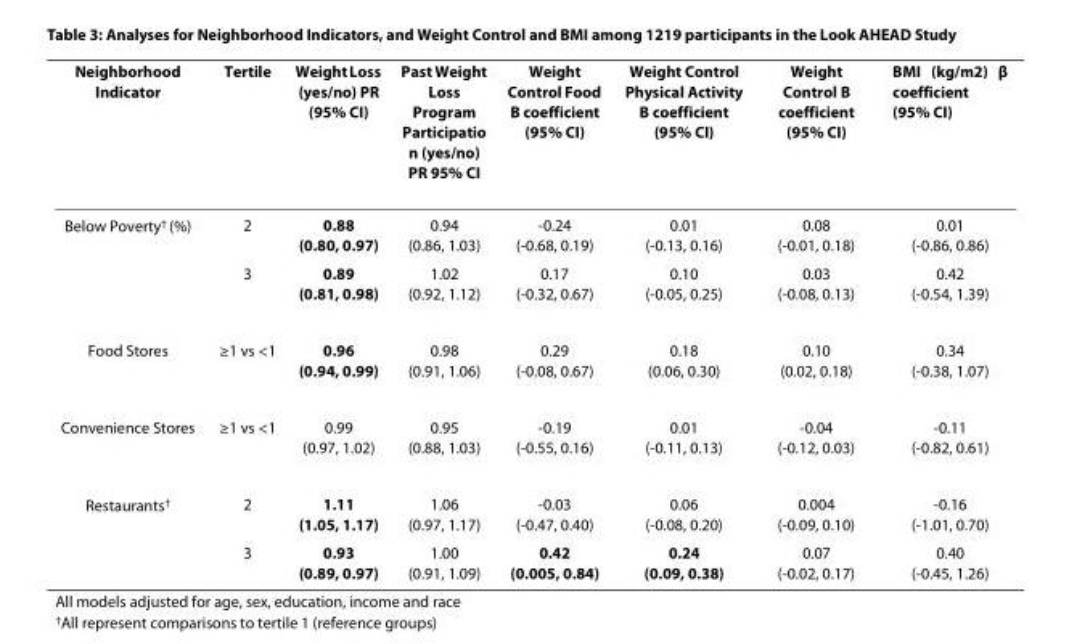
<table><thead><tr><td>Neighborhood Indicator</td><td>Tertile</td><td>Weight Loss (yes/no) PR (95% CI)</td><td>Past Weight Loss Program Participatio n (yes/no) PR 95% CI</td><td>Weight Control Food Β coefficient (95% CI)</td><td>Weight Control Physical Activity Β coefficient (95% CI)</td><td>Weight Control Β coefficient (95% CI)</td><td>BMI (kg/m<sup>2</sup>) β coefficient (95% CI)</td></tr></thead><tbody><tr><td rowspan="2">Below Poverty<sup>†</sup> (%)</td><td>2</td><td>0.88 (0.80, 0.97)</td><td>0.94 (0.86, 1.03)</td><td>-0.24 (-0.68, 0.19)</td><td>0.01 (-0.13, 0.16)</td><td>0.08 (-0.01, 0.18)</td><td>0.01 (-0.86, 0.86)</td></tr><tr><td>3</td><td>0.89 (0.81, 0.98)</td><td>1.02 (0.92, 1.12)</td><td>0.17 (-0.32, 0.67)</td><td>0.10 (-0.05, 0.25)</td><td>0.03 (-0.08, 0.13)</td><td>0.42 (-0.54, 1.39)</td></tr><tr><td>Food Stores</td><td>≥1 vs &lt;1</td><td>0.96 (0.94, 0.99)</td><td>0.98 (0.91, 1.06)</td><td>0.29 (-0.08, 0.67)</td><td>0.18 (0.06, 0.30)</td><td>0.10 (0.02, 0.18)</td><td>0.34 (-0.38, 1.07)</td></tr><tr><td>Convenience Stores</td><td>≥1 vs &lt;1</td><td>0.99 (0.97, 1.02)</td><td>0.95 (0.88, 1.03)</td><td>-0.19 (-0.55, 0.16)</td><td>0.01 (-0.11, 0.13)</td><td>-0.04 (-0.12, 0.03)</td><td>-0.11 (-0.82, 0.61)</td></tr><tr><td rowspan="2">Restaurants<sup>†</sup></td><td>2</td><td>1.11 (1.05, 1.17)</td><td>1.06 (0.97, 1.17)</td><td>-0.03 (-0.47, 0.40)</td><td>0.06 (-0.08, 0.20)</td><td>0.004 (-0.09, 0.10)</td><td>-0.16 (-1.01, 0.70)</td></tr><tr><td>3</td><td>0.93 (0.89, 0.97)</td><td>1.00 (0.91, 1.09)</td><td>0.42 (0.005, 0.84)</td><td>0.24 (0.09, 0.38)</td><td>0.07 (-0.02, 0.17)</td><td>0.40 (-0.45, 1.26)</td></tr></tbody></table>